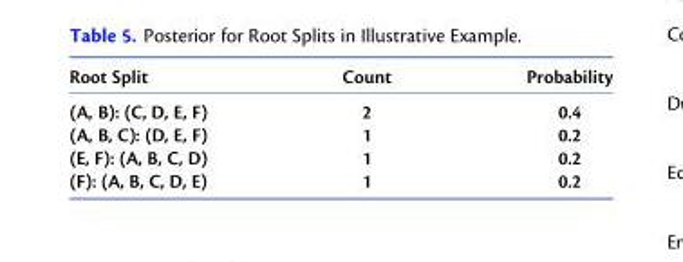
<table><thead><tr><td>Root Split</td><td>Count</td><td>Probability</td></tr></thead><tbody><tr><td>(A, B): (C, D, E, F)</td><td>2</td><td>0.4</td></tr><tr><td>(A, B, C): (D, E, F)</td><td>1</td><td>0.2</td></tr><tr><td>(E, F): (A, B, C, D)</td><td>1</td><td>0.2</td></tr><tr><td>(F): (A, B, C, D, E)</td><td>1</td><td>0.2</td></tr></tbody></table>